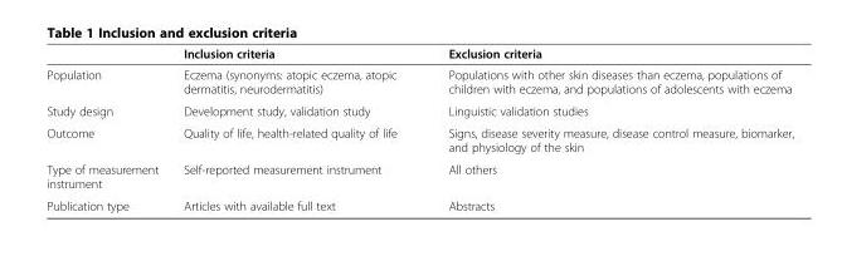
<table><thead><tr><td></td><td>Inclusion criteria</td><td>Exclusion criteria</td></tr></thead><tbody><tr><td>Population</td><td>Eczema (synonyms: atopic eczema, atopic dermatitis, neurodermatitis)</td><td>Populations with other skin diseases than eczema, populations of children with eczema, and populations of adolescents with eczema</td></tr><tr><td>Study design</td><td>Development study, validation study</td><td>Linguistic validation studies</td></tr><tr><td>Outcome</td><td>Quality of life, health-related quality of life</td><td>Signs, disease severity measure, disease control measure, biomarker, and physiology of the skin</td></tr><tr><td>Type of measurement instrument</td><td>Self-reported measurement instrument</td><td>All others</td></tr><tr><td>Publication type</td><td>Articles with available full text</td><td>Abstracts</td></tr></tbody></table>